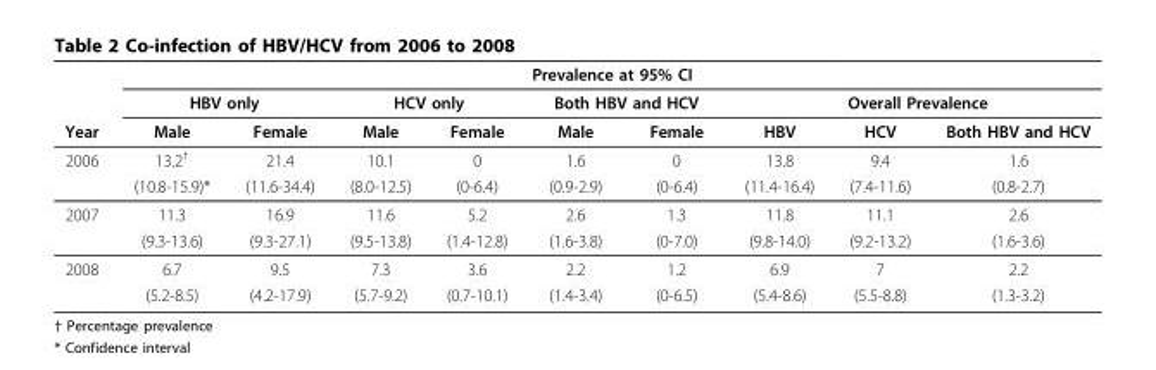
<table><thead><tr><td rowspan="3">Year</td><td colspan="9">Prevalence at 95% CI</td></tr><tr><td colspan="2">HBV only</td><td colspan="2">HCV only</td><td colspan="2">Both HBV and HCV</td><td colspan="3">Overall Prevalence</td></tr><tr><td>Male</td><td>Female</td><td>Male</td><td>Female</td><td>Male</td><td>Female</td><td>HBV</td><td>HCV</td><td>Both HBV and HCV</td></tr></thead><tbody><tr><td rowspan="2">2006</td><td>13.2<sup>†</sup></td><td>21.4</td><td>10.1</td><td>0</td><td>1.6</td><td>0</td><td>13.8</td><td>9.4</td><td>1.6</td></tr><tr><td>(10.8-15.9)*</td><td>(11.6-34.4)</td><td>(8.0-12.5)</td><td>(0-6.4)</td><td>(0.9-2.9)</td><td>(0-6.4)</td><td>(11.4-16.4)</td><td>(7.4-11.6)</td><td>(0.8-2.7)</td></tr><tr><td rowspan="2">2007</td><td>11.3</td><td>16.9</td><td>11.6</td><td>5.2</td><td>2.6</td><td>1.3</td><td>11.8</td><td>11.1</td><td>2.6</td></tr><tr><td>(9.3-13.6)</td><td>(9.3-27.1)</td><td>(9.5-13.8)</td><td>(1.4-12.8)</td><td>(1.6-3.8)</td><td>(0-7.0)</td><td>(9.8-14.0)</td><td>(9.2-13.2)</td><td>(1.6-3.6)</td></tr><tr><td rowspan="2">2008</td><td>6.7</td><td>9.5</td><td>7.3</td><td>3.6</td><td>2.2</td><td>1.2</td><td>6.9</td><td>7</td><td>2.2</td></tr><tr><td>(5.2-8.5)</td><td>(4.2-17.9)</td><td>(5.7-9.2)</td><td>(0.7-10.1)</td><td>(1.4-3.4)</td><td>(0-6.5)</td><td>(5.4-8.6)</td><td>(5.5-8.8)</td><td>(1.3-3.2)</td></tr></tbody></table>